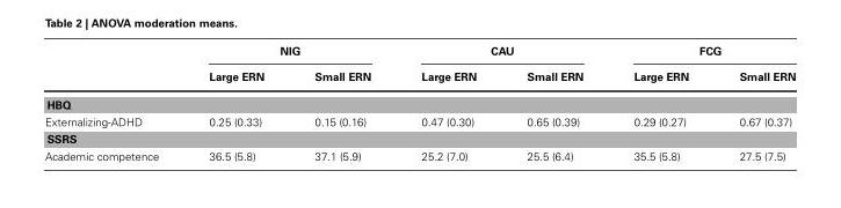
<table><thead><tr><td rowspan="2"></td><td colspan="2">NIG</td><td colspan="2">CAU</td><td colspan="2">FCG</td></tr><tr><td>Large ERN</td><td>Small ERN</td><td>Large ERN</td><td>Small ERN</td><td>Large ERN</td><td>Small ERN</td></tr></thead><tbody><tr><td colspan="7">HBQ</td></tr><tr><td>Externalizing-ADHD</td><td>0.25 (0.33)</td><td>0.15 (0.16)</td><td>0.47 (0.30)</td><td>0.65 (0.39)</td><td>0.29 (0.27)</td><td>0.67 (0.37)</td></tr><tr><td colspan="7">SSRS</td></tr><tr><td>Academic competence</td><td>36.5 (5.8)</td><td>37.1 (5.9)</td><td>25.2 (7.0)</td><td>25.5 (6.4)</td><td>35.5 (5.8)</td><td>27.5 (7.5)</td></tr></tbody></table>